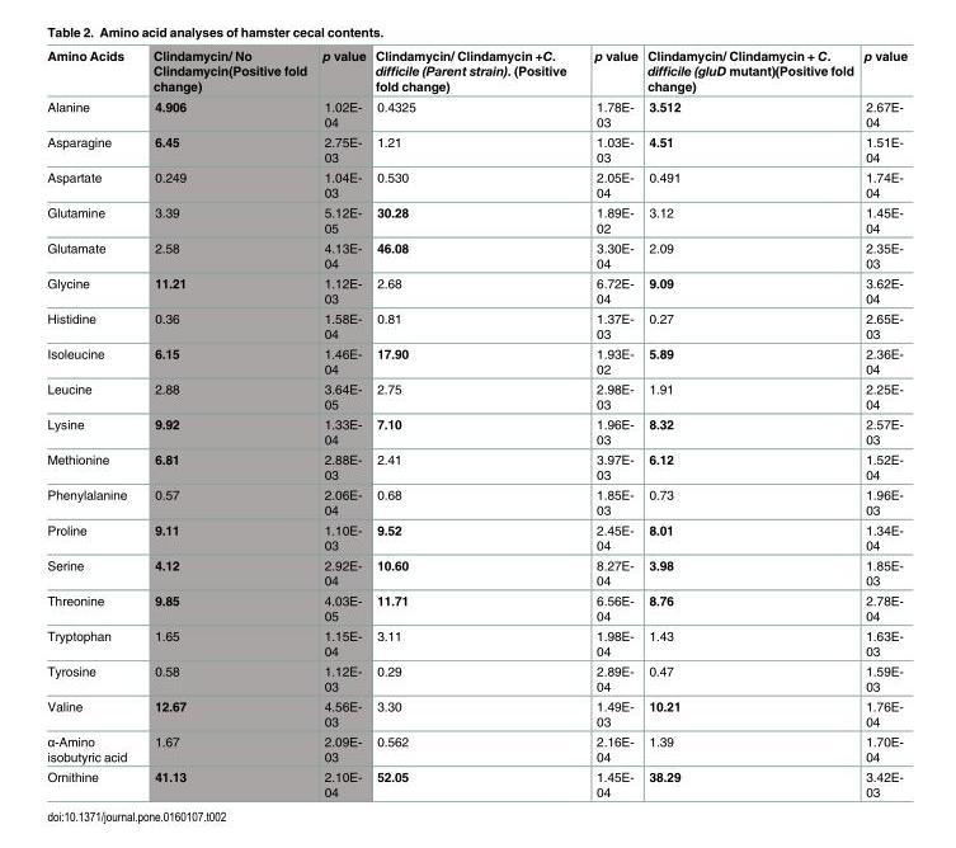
<table><thead><tr><td>Amino Acids</td><td>Clindamycin/ No Clindamycin(Positive fold change)</td><td>p value</td><td>Clindamycin/ Clindamycin +C. difficile (Parent strain). (Positive fold change)</td><td>p value</td><td>Clindamycin/ Clindamycin + C. difficile (gluD mutant)(Positive fold change)</td><td>p value</td></tr></thead><tbody><tr><td>Alanine</td><td>4.906</td><td>1.02E- 04</td><td>0.4325</td><td>1.78E- 03</td><td>3.512</td><td>2.67E- 04</td></tr><tr><td>Asparagine</td><td>6.45</td><td>2.75E- 03</td><td>1.21</td><td>1.03E- 03</td><td>4.51</td><td>1.51E- 04</td></tr><tr><td>Aspartate</td><td>0.249</td><td>1.04E- 03</td><td>0.530</td><td>2.05E- 04</td><td>0.491</td><td>1.74E- 04</td></tr><tr><td>Glutamine</td><td>3.39</td><td>5.12E- 05</td><td>30.28</td><td>1.89E- 02</td><td>3.12</td><td>1.45E- 04</td></tr><tr><td>Glutamate</td><td>2.58</td><td>4.13E- 04</td><td>46.08</td><td>3.30E- 04</td><td>2.09</td><td>2.35E- 03</td></tr><tr><td>Glycine</td><td>11.21</td><td>1.12E- 03</td><td>2.68</td><td>6.72E- 04</td><td>9.09</td><td>3.62E- 04</td></tr><tr><td>Histidine</td><td>0.36</td><td>1.58E- 04</td><td>0.81</td><td>1.37E- 03</td><td>0.27</td><td>2.65E- 03</td></tr><tr><td>Isoleucine</td><td>6.15</td><td>1.46E- 04</td><td>17.90</td><td>1.93E- 02</td><td>5.89</td><td>2.36E- 04</td></tr><tr><td>Leucine</td><td>2.88</td><td>3.64E- 05</td><td>2.75</td><td>2.98E- 03</td><td>1.91</td><td>2.25E- 04</td></tr><tr><td>Lysine</td><td>9.92</td><td>1.33E- 04</td><td>7.10</td><td>1.96E- 03</td><td>8.32</td><td>2.57E- 03</td></tr><tr><td>Methionine</td><td>6.81</td><td>2.88E- 03</td><td>2.41</td><td>3.97E- 03</td><td>6.12</td><td>1.52E- 04</td></tr><tr><td>Phenylalanine</td><td>0.57</td><td>2.06E- 04</td><td>0.68</td><td>1.85E- 03</td><td>0.73</td><td>1.96E- 03</td></tr><tr><td>Proline</td><td>9.11</td><td>1.10E- 03</td><td>9.52</td><td>2.45E- 04</td><td>8.01</td><td>1.34E- 04</td></tr><tr><td>Serine</td><td>4.12</td><td>2.92E- 04</td><td>10.60</td><td>8.27E- 04</td><td>3.98</td><td>1.85E- 03</td></tr><tr><td>Threonine</td><td>9.85</td><td>4.03E- 05</td><td>11.71</td><td>6.56E- 04</td><td>8.76</td><td>2.78E- 04</td></tr><tr><td>Tryptophan</td><td>1.65</td><td>1.15E- 04</td><td>3.11</td><td>1.98E- 04</td><td>1.43</td><td>1.63E- 03</td></tr><tr><td>Tyrosine</td><td>0.58</td><td>1.12E- 03</td><td>0.29</td><td>2.89E- 04</td><td>0.47</td><td>1.59E- 03</td></tr><tr><td>Valine</td><td>12.67</td><td>4.56E- 03</td><td>3.30</td><td>1.49E- 03</td><td>10.21</td><td>1.76E- 04</td></tr><tr><td>α-Amino isobutyric acid</td><td>1.67</td><td>2.09E- 03</td><td>0.562</td><td>2.16E- 04</td><td>1.39</td><td>1.70E- 04</td></tr><tr><td>Ornithine</td><td>41.13</td><td>2.10E- 04</td><td>52.05</td><td>1.45E- 04</td><td>38.29</td><td>3.42E- 03</td></tr></tbody></table>